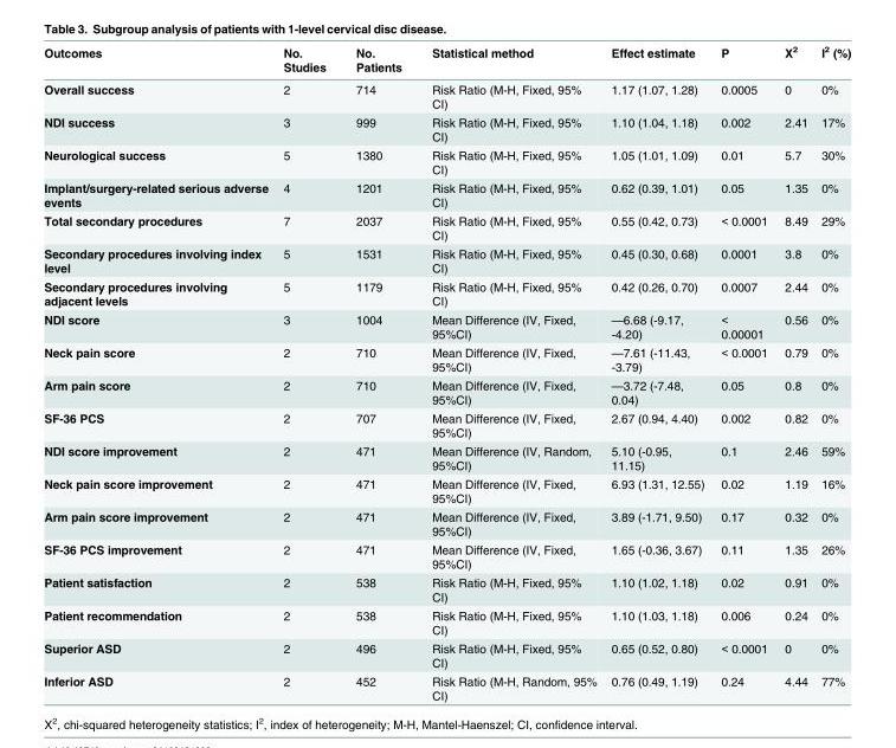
<table><thead><tr><td>Outcomes</td><td>No. Studies</td><td>No. Patients</td><td>Statistical method</td><td>Effect estimate</td><td>P</td><td>X<sup>2</sup></td><td>I<sup>2</sup> (%)</td></tr></thead><tbody><tr><td>Overall success</td><td>2</td><td>714</td><td>Risk Ratio (M-H, Fixed, 95% CI)</td><td>1.17 (1.07, 1.28)</td><td>0.0005</td><td>0</td><td>0%</td></tr><tr><td>NDI success</td><td>3</td><td>999</td><td>Risk Ratio (M-H, Fixed, 95% CI)</td><td>1.10 (1.04, 1.18)</td><td>0.002</td><td>2.41</td><td>17%</td></tr><tr><td>Neurological success</td><td>5</td><td>1380</td><td>Risk Ratio (M-H, Fixed, 95% CI)</td><td>1.05 (1.01, 1.09)</td><td>0.01</td><td>5.7</td><td>30%</td></tr><tr><td>Implant/surgery-related serious adverse events</td><td>4</td><td>1201</td><td>Risk Ratio (M-H, Fixed, 95% CI)</td><td>0.62 (0.39, 1.01)</td><td>0.05</td><td>1.35</td><td>0%</td></tr><tr><td>Total secondary procedures</td><td>7</td><td>2037</td><td>Risk Ratio (M-H, Fixed, 95% CI)</td><td>0.55 (0.42, 0.73)</td><td>&lt; 0.0001</td><td>8.49</td><td>29%</td></tr><tr><td>Secondary procedures involving index level</td><td>5</td><td>1531</td><td>Risk Ratio (M-H, Fixed, 95% CI)</td><td>0.45 (0.30, 0.68)</td><td>0.0001</td><td>3.8</td><td>0%</td></tr><tr><td>Secondary procedures involving adjacent levels</td><td>5</td><td>1179</td><td>Risk Ratio (M-H, Fixed, 95% CI)</td><td>0.42 (0.26, 0.70)</td><td>0.0007</td><td>2.44</td><td>0%</td></tr><tr><td>NDI score</td><td>3</td><td>1004</td><td>Mean Difference (IV, Fixed, 95%CI)</td><td>—6.68 (-9.17, -4.20)</td><td>&lt; 0.00001</td><td>0.56</td><td>0%</td></tr><tr><td>Neck pain score</td><td>2</td><td>710</td><td>Mean Difference (IV, Fixed, 95%CI)</td><td>—7.61 (-11.43, -3.79)</td><td>&lt; 0.0001</td><td>0.79</td><td>0%</td></tr><tr><td>Arm pain score</td><td>2</td><td>710</td><td>Mean Difference (IV, Fixed, 95%CI)</td><td>—3.72 (-7.48, 0.04)</td><td>0.05</td><td>0.8</td><td>0%</td></tr><tr><td>SF-36 PCS</td><td>2</td><td>707</td><td>Mean Difference (IV, Fixed, 95%CI)</td><td>2.67 (0.94, 4.40)</td><td>0.002</td><td>0.82</td><td>0%</td></tr><tr><td>NDI score improvement</td><td>2</td><td>471</td><td>Mean Difference (IV, Random, 95%CI)</td><td>5.10 (-0.95, 11.15)</td><td>0.1</td><td>2.46</td><td>59%</td></tr><tr><td>Neck pain score improvement</td><td>2</td><td>471</td><td>Mean Difference (IV, Fixed, 95%CI)</td><td>6.93 (1.31, 12.55)</td><td>0.02</td><td>1.19</td><td>16%</td></tr><tr><td>Arm pain score improvement</td><td>2</td><td>471</td><td>Mean Difference (IV, Fixed, 95%CI)</td><td>3.89 (-1.71, 9.50)</td><td>0.17</td><td>0.32</td><td>0%</td></tr><tr><td>SF-36 PCS improvement</td><td>2</td><td>471</td><td>Mean Difference (IV, Fixed, 95%CI)</td><td>1.65 (-0.36, 3.67)</td><td>0.11</td><td>1.35</td><td>26%</td></tr><tr><td>Patient satisfaction</td><td>2</td><td>538</td><td>Risk Ratio (M-H, Fixed, 95% CI)</td><td>1.10 (1.02, 1.18)</td><td>0.02</td><td>0.91</td><td>0%</td></tr><tr><td>Patient recommendation</td><td>2</td><td>538</td><td>Risk Ratio (M-H, Fixed, 95% CI)</td><td>1.10 (1.03, 1.18)</td><td>0.006</td><td>0.24</td><td>0%</td></tr><tr><td>Superior ASD</td><td>2</td><td>496</td><td>Risk Ratio (M-H, Fixed, 95% CI)</td><td>0.65 (0.52, 0.80)</td><td>&lt; 0.0001</td><td>0</td><td>0%</td></tr><tr><td>Inferior ASD</td><td>2</td><td>452</td><td>Risk Ratio (M-H, Random, 95% CI)</td><td>0.76 (0.49, 1.19)</td><td>0.24</td><td>4.44</td><td>77%</td></tr></tbody></table>